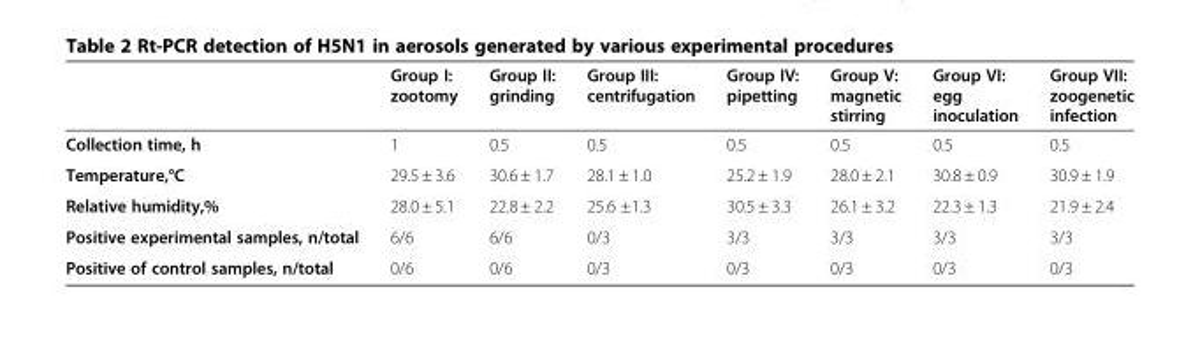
<table><thead><tr><td></td><td>Group I: zootomy</td><td>Group II: grinding</td><td>Group III: centrifugation</td><td>Group IV: pipetting</td><td>Group V: magnetic stirring</td><td>Group VI: egg inoculation</td><td>Group VII: zoogenetic infection</td></tr></thead><tbody><tr><td>Collection time, h</td><td>1</td><td>0.5</td><td>0.5</td><td>0.5</td><td>0.5</td><td>0.5</td><td>0.5</td></tr><tr><td>Temperature,°C</td><td>29.5 ± 3.6</td><td>30.6 ± 1.7</td><td>28.1 ± 1.0</td><td>25.2 ± 1.9</td><td>28.0 ± 2.1</td><td>30.8 ± 0.9</td><td>30.9 ± 1.9</td></tr><tr><td>Relative humidity,%</td><td>28.0 ± 5.1</td><td>22.8 ± 2.2</td><td>25.6 ±1.3</td><td>30.5 ± 3.3</td><td>26.1 ± 3.2</td><td>22.3 ± 1.3</td><td>21.9 ± 2.4</td></tr><tr><td>Positive experimental samples, n/total</td><td>6/6</td><td>6/6</td><td>0/3</td><td>3/3</td><td>3/3</td><td>3/3</td><td>3/3</td></tr><tr><td>Positive of control samples, n/total</td><td>0/6</td><td>0/6</td><td>0/3</td><td>0/3</td><td>0/3</td><td>0/3</td><td>0/3</td></tr></tbody></table>